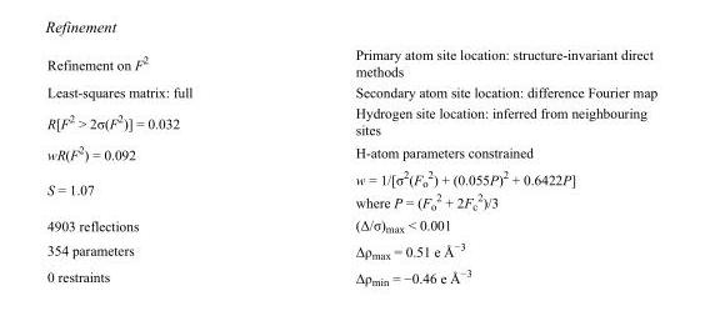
<table><tbody><tr><td>Refinement on F<sup>2</sup></td><td>Primary atom site location: structure-invariant direct methods</td></tr><tr><td>Least-squares matrix: full</td><td>Secondary atom site location: difference Fourier map</td></tr><tr><td>R[F<sup>2</sup> &gt; 2σ(F<sup>2</sup>)] = 0.032</td><td>Hydrogen site location: inferred from neighbouring sites</td></tr><tr><td>wR(F<sup>2</sup>) = 0.092</td><td>H-atom parameters constrained</td></tr><tr><td>S = 1.07</td><td>w = 1/[σ<sup>2</sup>(F<sub>o</sub> <sup>2</sup>) + (0.055P)<sup>2</sup> + 0.6422P] where P = (F<sub>o</sub> <sup>2</sup> + 2F<sub>c</sub> <sup>2</sup>)/3</td></tr><tr><td>4903 reflections</td><td>(Δ/σ)<sub>max</sub> &lt; 0.001</td></tr><tr><td>354 parameters</td><td>Δρ<sub>max</sub> = 0.51 e Å<sup>−3</sup></td></tr><tr><td>0 restraints</td><td>Δρ<sub>min</sub> = −0.46 e Å<sup>−3</sup></td></tr></tbody></table>